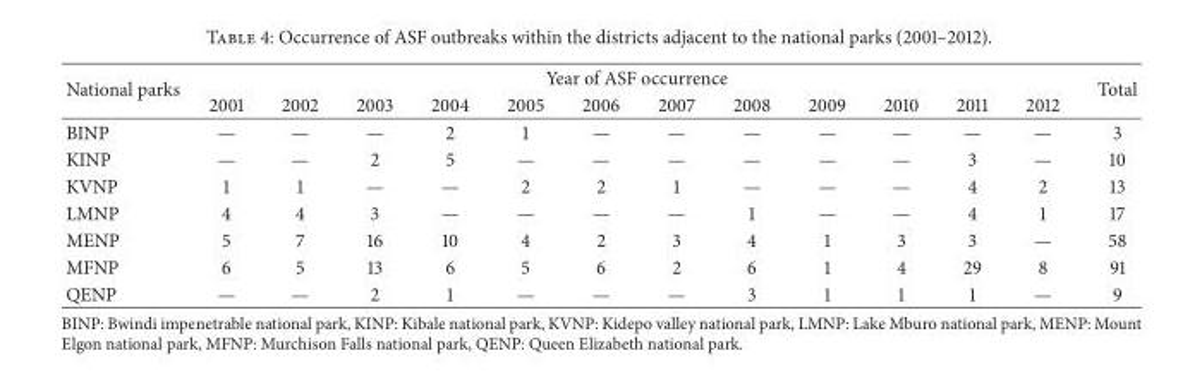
<table><thead><tr><td rowspan="2">National parks</td><td colspan="12">Year of ASF occurrence</td><td rowspan="2">Total</td></tr><tr><td>2001</td><td>2002</td><td>2003</td><td>2004</td><td>2005</td><td>2006</td><td>2007</td><td>2008</td><td>2009</td><td>2010</td><td>2011</td><td>2012</td></tr></thead><tbody><tr><td>BINP</td><td>—</td><td>—</td><td>—</td><td>2</td><td>1</td><td>—</td><td>—</td><td>—</td><td>—</td><td>—</td><td>—</td><td>—</td><td>3</td></tr><tr><td>KINP</td><td>—</td><td>—</td><td>2</td><td>5</td><td>—</td><td>—</td><td>—</td><td>—</td><td>—</td><td>—</td><td>3</td><td>—</td><td>10</td></tr><tr><td>KVNP</td><td>1</td><td>1</td><td>—</td><td>—</td><td>2</td><td>2</td><td>1</td><td>—</td><td>—</td><td>—</td><td>4</td><td>2</td><td>13</td></tr><tr><td>LMNP</td><td>4</td><td>4</td><td>3</td><td>—</td><td>—</td><td>—</td><td>—</td><td>1</td><td>—</td><td>—</td><td>4</td><td>1</td><td>17</td></tr><tr><td>MENP</td><td>5</td><td>7</td><td>16</td><td>10</td><td>4</td><td>2</td><td>3</td><td>4</td><td>1</td><td>3</td><td>3</td><td>—</td><td>58</td></tr><tr><td>MFNP</td><td>6</td><td>5</td><td>13</td><td>6</td><td>5</td><td>6</td><td>2</td><td>6</td><td>1</td><td>4</td><td>29</td><td>8</td><td>91</td></tr><tr><td>QENP</td><td>—</td><td>—</td><td>2</td><td>1</td><td>—</td><td>—</td><td>—</td><td>3</td><td>1</td><td>1</td><td>1</td><td>—</td><td>9</td></tr></tbody></table>